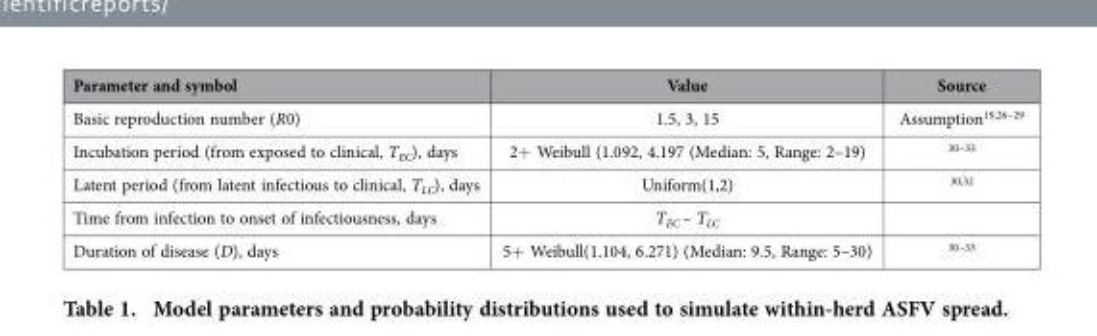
<table><thead><tr><td>Parameter and symbol</td><td>Value</td><td>Source</td></tr></thead><tbody><tr><td>Basic reproduction number (R0)</td><td>1.5, 3, 15</td><td>Assumption19,26–29</td></tr><tr><td>Incubation period (from exposed to clinical, T<sub>EC</sub>), days</td><td>2+ Weibull (1.092, 4.197 (Median: 5, Range: 2–19)</td><td>30–33</td></tr><tr><td>Latent period (from latent infectious to clinical, T<sub>LC</sub>), days</td><td>Uniform(1,2)</td><td>30,32</td></tr><tr><td>Time from infection to onset of infectiousness, days</td><td>T<sub>EC</sub> – T<sub>LC</sub></td><td></td></tr><tr><td>Duration of disease (D), days</td><td>5+ Weibull(1.104, 6.271) (Median: 9.5, Range: 5–30)</td><td>30–33</td></tr></tbody></table>